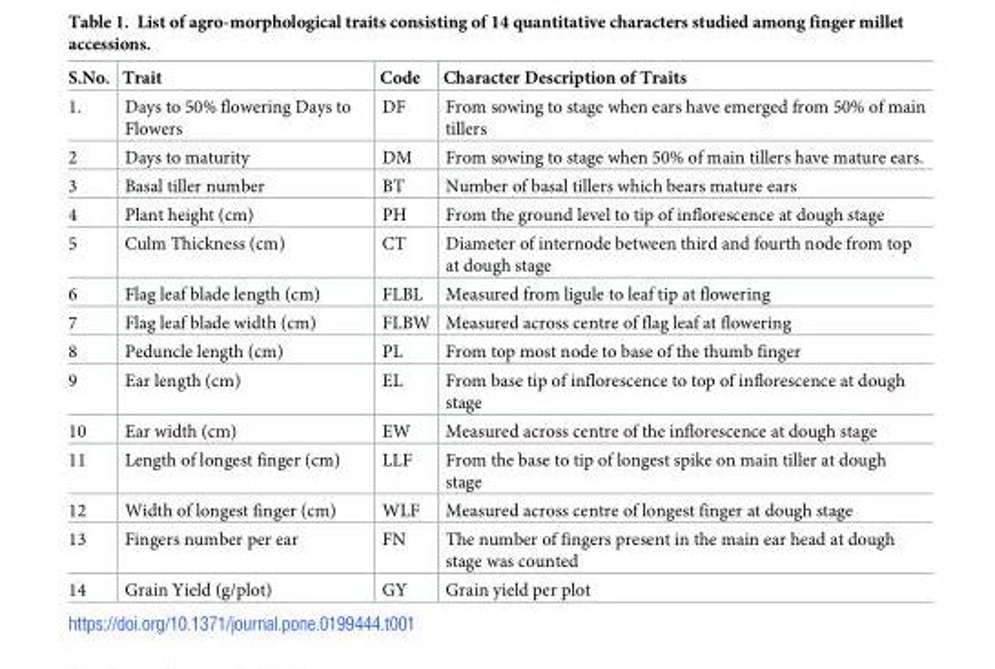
<table><thead><tr><td>S.No.</td><td>Trait</td><td>Code</td><td>Character Description of Traits</td></tr></thead><tbody><tr><td>1.</td><td>Days to 50% flowering Days to Flowers</td><td>DF</td><td>From sowing to stage when ears have emerged from 50% of main tillers</td></tr><tr><td>2</td><td>Days to maturity</td><td>DM</td><td>From sowing to stage when 50% of main tillers have mature ears.</td></tr><tr><td>3</td><td>Basal tiller number</td><td>BT</td><td>Number of basal tillers which bears mature ears</td></tr><tr><td>4</td><td>Plant height (cm)</td><td>PH</td><td>From the ground level to tip of inflorescence at dough stage</td></tr><tr><td>5</td><td>Culm Thickness (cm)</td><td>CT</td><td>Diameter of internode between third and fourth node from top at dough stage</td></tr><tr><td>6</td><td>Flag leaf blade length (cm)</td><td>FLBL</td><td>Measured from ligule to leaf tip at flowering</td></tr><tr><td>7</td><td>Flag leaf blade width (cm)</td><td>FLBW</td><td>Measured across centre of flag leaf at flowering</td></tr><tr><td>8</td><td>Peduncle length (cm)</td><td>PL</td><td>From top most node to base of the thumb finger</td></tr><tr><td>9</td><td>Ear length (cm)</td><td>EL</td><td>From base tip of inflorescence to top of inflorescence at dough stage</td></tr><tr><td>10</td><td>Ear width (cm)</td><td>EW</td><td>Measured across centre of the inflorescence at dough stage</td></tr><tr><td>11</td><td>Length of longest finger (cm)</td><td>LLF</td><td>From the base to tip of longest spike on main tiller at dough stage</td></tr><tr><td>12</td><td>Width of longest finger (cm)</td><td>WLF</td><td>Measured across centre of longest finger at dough stage</td></tr><tr><td>13</td><td>Fingers number per ear</td><td>FN</td><td>The number of fingers present in the main ear head at dough stage was counted</td></tr><tr><td>14</td><td>Grain Yield (g/plot)</td><td>GY</td><td>Grain yield per plot</td></tr></tbody></table>